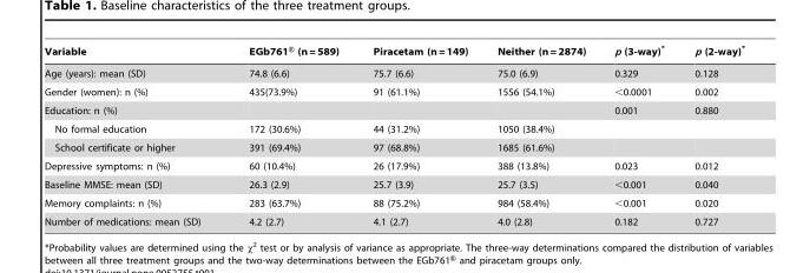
<table><thead><tr><td>Variable</td><td>EGb761® (n = 589)</td><td>Piracetam (n = 149)</td><td>Neither (n = 2874)</td><td>p (3-way)*</td><td>p (2-way)*</td></tr></thead><tbody><tr><td>Age (years): mean (SD)</td><td>74.8 (6.6)</td><td>75.7 (6.6)</td><td>75.0 (6.9)</td><td>0.329</td><td>0.128</td></tr><tr><td>Gender (women): n (%)</td><td>435(73.9%)</td><td>91 (61.1%)</td><td>1556 (54.1%)</td><td>&lt;0.0001</td><td>0.002</td></tr><tr><td>Education: n (%)</td><td></td><td></td><td></td><td>0.001</td><td>0.880</td></tr><tr><td>No formal education</td><td>172 (30.6%)</td><td>44 (31.2%)</td><td>1050 (38.4%)</td><td></td><td></td></tr><tr><td>School certificate or higher</td><td>391 (69.4%)</td><td>97 (68.8%)</td><td>1685 (61.6%)</td><td></td><td></td></tr><tr><td>Depressive symptoms: n (%)</td><td>60 (10.4%)</td><td>26 (17.9%)</td><td>388 (13.8%)</td><td>0.023</td><td>0.012</td></tr><tr><td>Baseline MMSE: mean (SD)</td><td>26.3 (2.9)</td><td>25.7 (3.9)</td><td>25.7 (3.5)</td><td>&lt;0.001</td><td>0.040</td></tr><tr><td>Memory complaints: n (%)</td><td>283 (63.7%)</td><td>88 (75.2%)</td><td>984 (58.4%)</td><td>&lt;0.001</td><td>0.020</td></tr><tr><td>Number of medications: mean (SD)</td><td>4.2 (2.7)</td><td>4.1 (2.7)</td><td>4.0 (2.8)</td><td>0.182</td><td>0.727</td></tr></tbody></table>